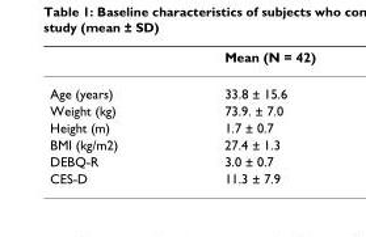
<table><thead><tr><td></td><td>Mean (N = 42)</td></tr></thead><tbody><tr><td>Age (years)</td><td>33.8 ± 15.6</td></tr><tr><td>Weight (kg)</td><td>73.9. ± 7.0</td></tr><tr><td>Height (m)</td><td>1.7 ± 0.7</td></tr><tr><td>BMI (kg/m2)</td><td>27.4 ± 1.3</td></tr><tr><td>DEBQ-R</td><td>3.0 ± 0.7</td></tr><tr><td>CES-D</td><td>11.3 ± 7.9</td></tr></tbody></table>